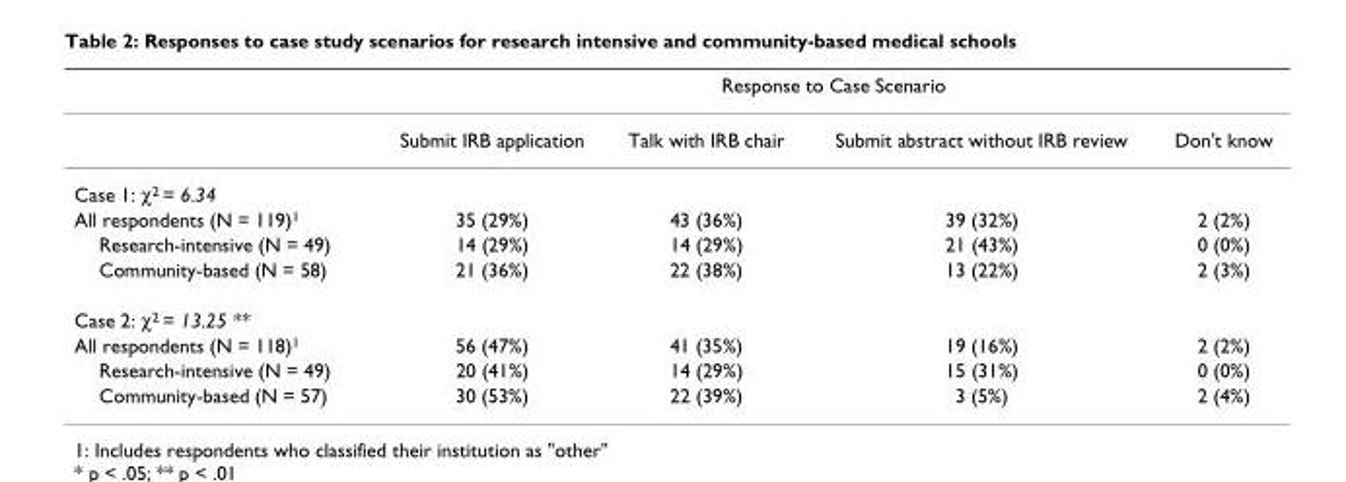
<table><thead><tr><td rowspan="2"></td><td colspan="4">Response to Case Scenario</td></tr><tr><td>Submit IRB application</td><td>Talk with IRB chair</td><td>Submit abstract without IRB review</td><td>Don&#x27;t know</td></tr></thead><tbody><tr><td colspan="5">Case 1: χ<sup>2</sup> = 6.34</td></tr><tr><td>All respondents (N = 119)<sup>1</sup></td><td>35 (29%)</td><td>43 (36%)</td><td>39 (32%)</td><td>2 (2%)</td></tr><tr><td>Research-intensive (N = 49)</td><td>14 (29%)</td><td>14 (29%)</td><td>21 (43%)</td><td>0 (0%)</td></tr><tr><td>Community-based (N = 58)</td><td>21 (36%)</td><td>22 (38%)</td><td>13 (22%)</td><td>2 (3%)</td></tr><tr><td colspan="5">Case 2: χ<sup>2</sup> = 13.25 **</td></tr><tr><td>All respondents (N = 118)<sup>1</sup></td><td>56 (47%)</td><td>41 (35%)</td><td>19 (16%)</td><td>2 (2%)</td></tr><tr><td>Research-intensive (N = 49)</td><td>20 (41%)</td><td>14 (29%)</td><td>15 (31%)</td><td>0 (0%)</td></tr><tr><td>Community-based (N = 57)</td><td>30 (53%)</td><td>22 (39%)</td><td>3 (5%)</td><td>2 (4%)</td></tr></tbody></table>